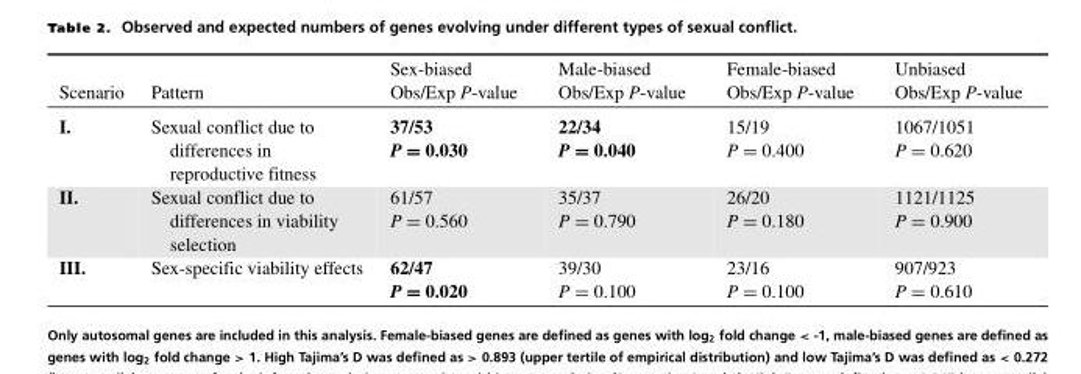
<table><thead><tr><td rowspan="2">Scenario</td><td rowspan="2">Pattern</td><td rowspan="2">Sex-biased Obs/Exp P-value</td><td rowspan="2">Male-biased Obs/Exp P-value</td><td rowspan="2">Female-biased Obs/Exp P-value</td><td rowspan="2">Unbiased Obs/Exp P-value</td></tr><tr></tr></thead><tbody><tr><td>I.</td><td>Sexual conflict due to differences in reproductive fitness</td><td>37/53 P = 0.030</td><td>22/34 P = 0.040</td><td>15/19 P = 0.400</td><td>1067/1051 P = 0.620</td></tr><tr><td>II.</td><td>Sexual conflict due to differences in viability selection</td><td>61/57 P = 0.560</td><td>35/37 P = 0.790</td><td>26/20 P = 0.180</td><td>1121/1125 P = 0.900</td></tr><tr><td>III.</td><td>Sex-specific viability effects</td><td>62/47 P = 0.020</td><td>39/30 P = 0.100</td><td>23/16 P = 0.100</td><td>907/923 P = 0.610</td></tr></tbody></table>